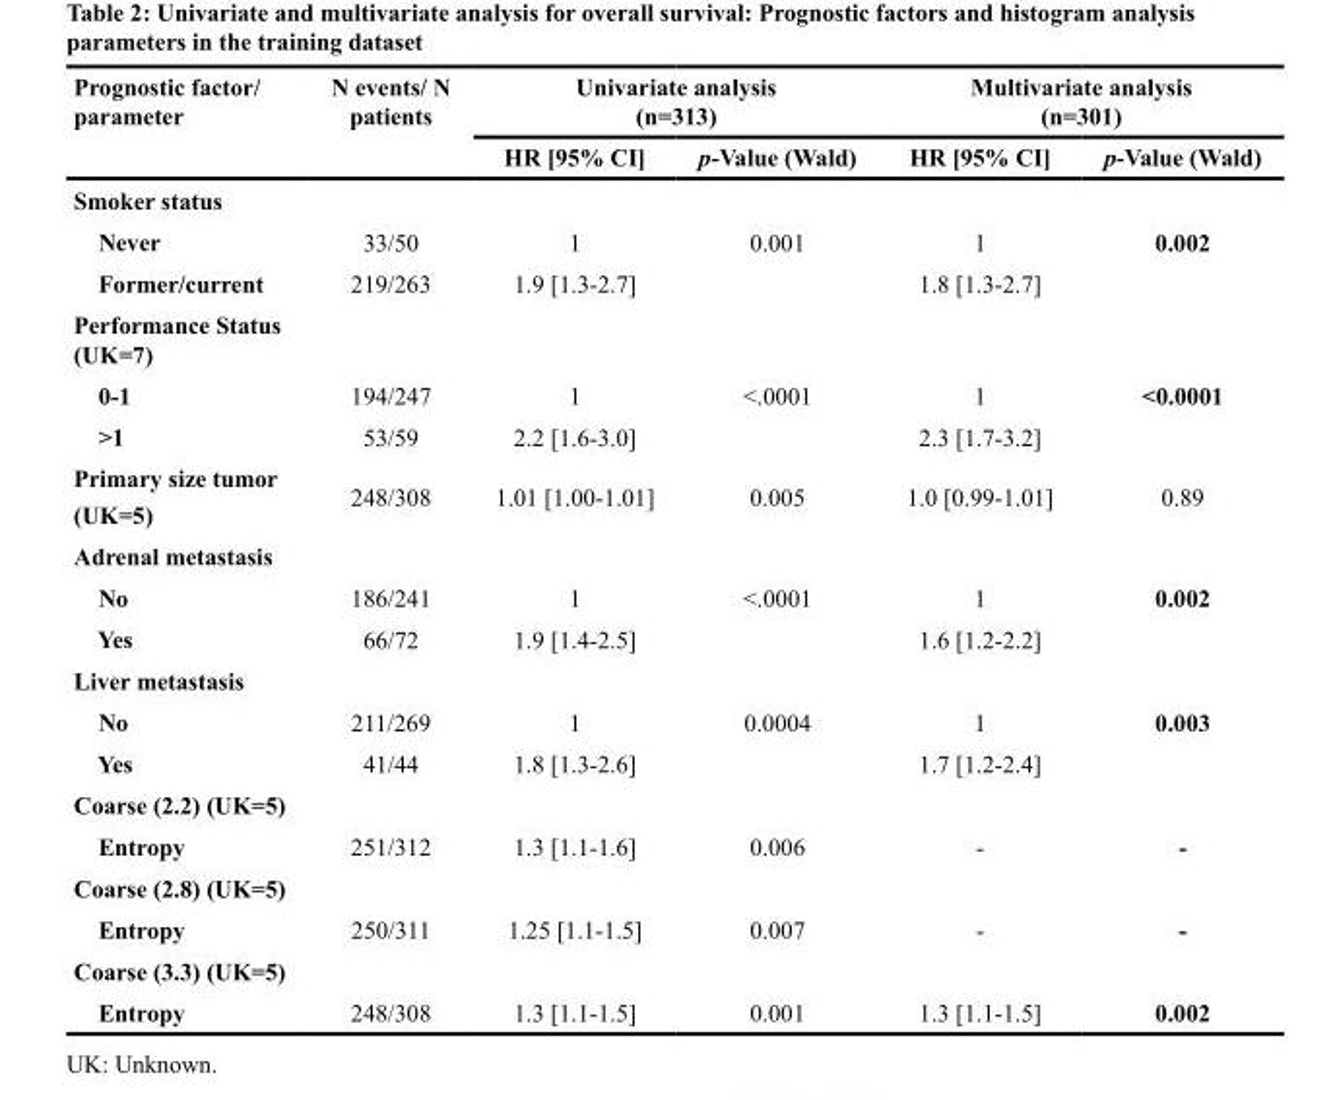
<table><thead><tr><td rowspan="2">Prognostic factor/ parameter</td><td rowspan="2">N events/ N patients</td><td colspan="2">Univariate analysis (n=313)</td><td colspan="2">Multivariate analysis (n=301)</td></tr><tr><td>HR [95% CI]</td><td>p-Value (Wald)</td><td>HR [95% CI]</td><td>p-Value (Wald)</td></tr></thead><tbody><tr><td colspan="6">Smoker status</td></tr><tr><td>Never</td><td>33/50</td><td>1</td><td>0.001</td><td>1</td><td>0.002</td></tr><tr><td>Former/current</td><td>219/263</td><td>1.9 [1.3-2.7]</td><td></td><td>1.8 [1.3-2.7]</td><td></td></tr><tr><td colspan="6">Performance Status (UK=7)</td></tr><tr><td>0-1</td><td>194/247</td><td>1</td><td>&lt;.0001</td><td>1</td><td>&lt;0.0001</td></tr><tr><td>&gt;1</td><td>53/59</td><td>2.2 [1.6-3.0]</td><td></td><td>2.3 [1.7-3.2]</td><td></td></tr><tr><td>Primary size tumor (UK=5)</td><td>248/308</td><td>1.01 [1.00-1.01]</td><td>0.005</td><td>1.0 [0.99-1.01]</td><td>0.89</td></tr><tr><td colspan="6">Adrenal metastasis</td></tr><tr><td>No</td><td>186/241</td><td>1</td><td>&lt;.0001</td><td>1</td><td>0.002</td></tr><tr><td>Yes</td><td>66/72</td><td>1.9 [1.4-2.5]</td><td></td><td>1.6 [1.2-2.2]</td><td></td></tr><tr><td colspan="6">Liver metastasis</td></tr><tr><td>No</td><td>211/269</td><td>1</td><td>0.0004</td><td>1</td><td>0.003</td></tr><tr><td>Yes</td><td>41/44</td><td>1.8 [1.3-2.6]</td><td></td><td>1.7 [1.2-2.4]</td><td></td></tr><tr><td colspan="6">Coarse (2.2) (UK=5)</td></tr><tr><td>Entropy</td><td>251/312</td><td>1.3 [1.1-1.6]</td><td>0.006</td><td>-</td><td>-</td></tr><tr><td colspan="6">Coarse (2.8) (UK=5)</td></tr><tr><td>Entropy</td><td>250/311</td><td>1.25 [1.1-1.5]</td><td>0.007</td><td>-</td><td>-</td></tr><tr><td colspan="6">Coarse (3.3) (UK=5)</td></tr><tr><td>Entropy</td><td>248/308</td><td>1.3 [1.1-1.5]</td><td>0.001</td><td>1.3 [1.1-1.5]</td><td>0.002</td></tr></tbody></table>